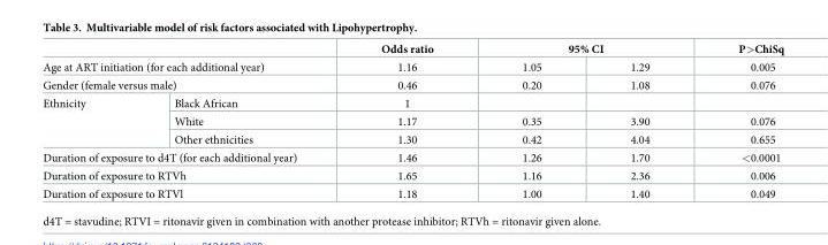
<table><thead><tr><td></td><td></td><td rowspan="2">Odds ratio 1.16</td><td colspan="2">95% CI</td><td rowspan="2">P&gt;ChiSq 0.005</td></tr><tr><td colspan="2">Age at ART initiation (for each additional year)</td><td>1.05</td><td>1.29</td></tr></thead><tbody><tr><td colspan="2">Gender (female versus male)</td><td>0.46</td><td>0.20</td><td>1.08</td><td>0.076</td></tr><tr><td rowspan="3">Ethnicity</td><td>Black African</td><td>1</td><td></td><td></td><td></td></tr><tr><td>White</td><td>1.17</td><td>0.35</td><td>3.90</td><td>0.076</td></tr><tr><td>Other ethnicities</td><td>1.30</td><td>0.42</td><td>4.04</td><td>0.655</td></tr><tr><td colspan="2">Duration of exposure to d4T (for each additional year)</td><td>1.46</td><td>1.26</td><td>1.70</td><td>&lt;0.0001</td></tr><tr><td colspan="2">Duration of exposure to RTVh</td><td>1.65</td><td>1.16</td><td>2.36</td><td>0.006</td></tr><tr><td colspan="2">Duration of exposure to RTVl</td><td>1.18</td><td>1.00</td><td>1.40</td><td>0.049</td></tr></tbody></table>